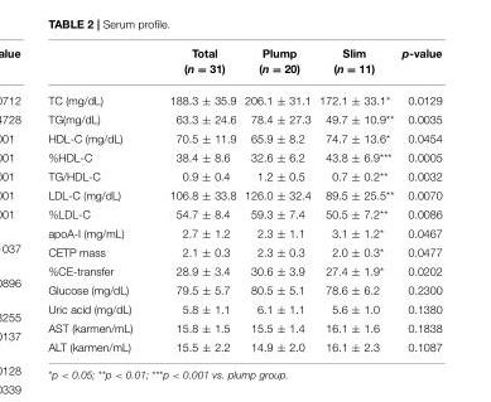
<table><thead><tr><td></td><td>Total (n = 31)</td><td>Plump (n = 20)</td><td>Slim (n = 11)</td><td>p-value</td></tr></thead><tbody><tr><td>TC (mg/dL)</td><td>188.3 ± 35.9</td><td>206.1 ± 31.1</td><td>172.1 ± 33.1*</td><td>0.0129</td></tr><tr><td>TG(mg/dL)</td><td>63.3 ± 24.6</td><td>78.4 ± 27.3</td><td>49.7 ± 10.9**</td><td>0.0035</td></tr><tr><td>HDL-C (mg/dL)</td><td>70.5 ± 11.9</td><td>65.9 ± 8.2</td><td>74.7 ± 13.6*</td><td>0.0454</td></tr><tr><td>%HDL-C</td><td>38.4 ± 8.6</td><td>32.6 ± 6.2</td><td>43.8 ± 6.9***</td><td>0.0005</td></tr><tr><td>TG/HDL-C</td><td>0.9 ± 0.4</td><td>1.2 ± 0.5</td><td>0.7 ± 0.2**</td><td>0.0032</td></tr><tr><td>LDL-C (mg/dL)</td><td>106.8 ± 33.8</td><td>126.0 ± 32.4</td><td>89.5 ± 25.5**</td><td>0.0070</td></tr><tr><td>%LDL-C</td><td>54.7 ± 8.4</td><td>59.3 ± 7.4</td><td>50.5 ± 7.2**</td><td>0.0086</td></tr><tr><td>apoA-I (mg/mL)</td><td>2.7 ± 1.2</td><td>2.3 ± 1.1</td><td>3.1 ± 1.2*</td><td>0.0467</td></tr><tr><td>CETP mass</td><td>2.1 ± 0.3</td><td>2.3 ± 0.3</td><td>2.0 ± 0.3*</td><td>0.0477</td></tr><tr><td>%CE-transfer</td><td>28.9 ± 3.4</td><td>30.6 ± 3.9</td><td>27.4 ± 1.9*</td><td>0.0202</td></tr><tr><td>Glucose (mg/dL)</td><td>79.5 ± 5.7</td><td>80.5 ± 5.1</td><td>78.6 ± 6.2</td><td>0.2300</td></tr><tr><td>Uric acid (mg/dL)</td><td>5.8 ± 1.1</td><td>6.1 ± 1.1</td><td>5.6 ± 1.0</td><td>0.1380</td></tr><tr><td>AST (karmen/mL)</td><td>15.8 ± 1.5</td><td>15.5 ± 1.4</td><td>16.1 ± 1.6</td><td>0.1838</td></tr><tr><td>ALT (karmen/mL)</td><td>15.5 ± 2.2</td><td>14.9 ± 2.0</td><td>16.1 ± 2.3</td><td>0.1087</td></tr></tbody></table>